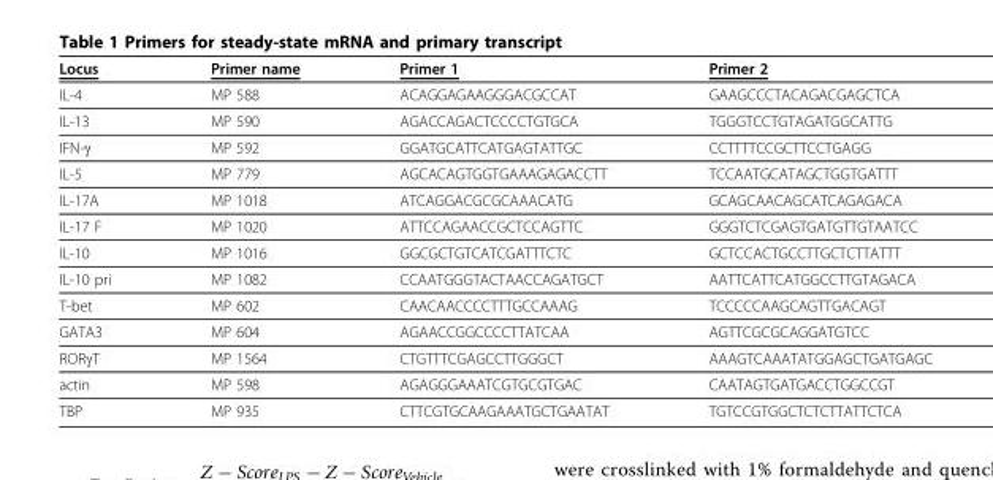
<table><thead><tr><td>Locus</td><td>Primer name</td><td>Primer 1</td><td>Primer 2</td></tr></thead><tbody><tr><td>IL-4</td><td>MP 588</td><td>ACAGGAGAAGGGACGCCAT</td><td>GAAGCCCTACAGACGAGCTCA</td></tr><tr><td>IL-13</td><td>MP 590</td><td>AGACCAGACTCCCCTGTGCA</td><td>TGGGTCCTGTAGATGGCATTG</td></tr><tr><td>IFN-γ</td><td>MP 592</td><td>GGATGCATTCATGAGTATTGC</td><td>CCTTTTCCGCTTCCTGAGG</td></tr><tr><td>IL-5</td><td>MP 779</td><td>AGCACAGTGGTGAAAGAGACCTT</td><td>TCCAATGCATAGCTGGTGATTT</td></tr><tr><td>IL-17A</td><td>MP 1018</td><td>ATCAGGACGCGCAAACATG</td><td>GCAGCAACAGCATCAGAGACA</td></tr><tr><td>IL-17 F</td><td>MP 1020</td><td>ATTCCAGAACCGCTCCAGTTC</td><td>GGGTCTCGAGTGATGTTGTAATCC</td></tr><tr><td>IL-10</td><td>MP 1016</td><td>GGCGCTGTCATCGATTTCTC</td><td>GCTCCACTGCCTTGCTCTTATTT</td></tr><tr><td>IL-10 pri</td><td>MP 1082</td><td>CCAATGGGTACTAACCAGATGCT</td><td>AATTCATTCATGGCCTTGTAGACA</td></tr><tr><td>T-bet</td><td>MP 602</td><td>CAACAACCCCTTTGCCAAAG</td><td>TCCCCCAAGCAGTTGACAGT</td></tr><tr><td>GATA3</td><td>MP 604</td><td>AGAACCGGCCCCTTATCAA</td><td>AGTTCGCGCAGGATGTCC</td></tr><tr><td>RORγT</td><td>MP 1564</td><td>CTGTTTCGAGCCTTGGGCT</td><td>AAAGTCAAATATGGAGCTGATGAGC</td></tr><tr><td>actin</td><td>MP 598</td><td>AGAGGGAAATCGTGCGTGAC</td><td>CAATAGTGATGACCTGGCCGT</td></tr><tr><td>TBP</td><td>MP 935</td><td>CTTCGTGCAAGAAATGCTGAATAT</td><td>TGTCCGTGGCTCTCTTATTCTCA</td></tr></tbody></table>